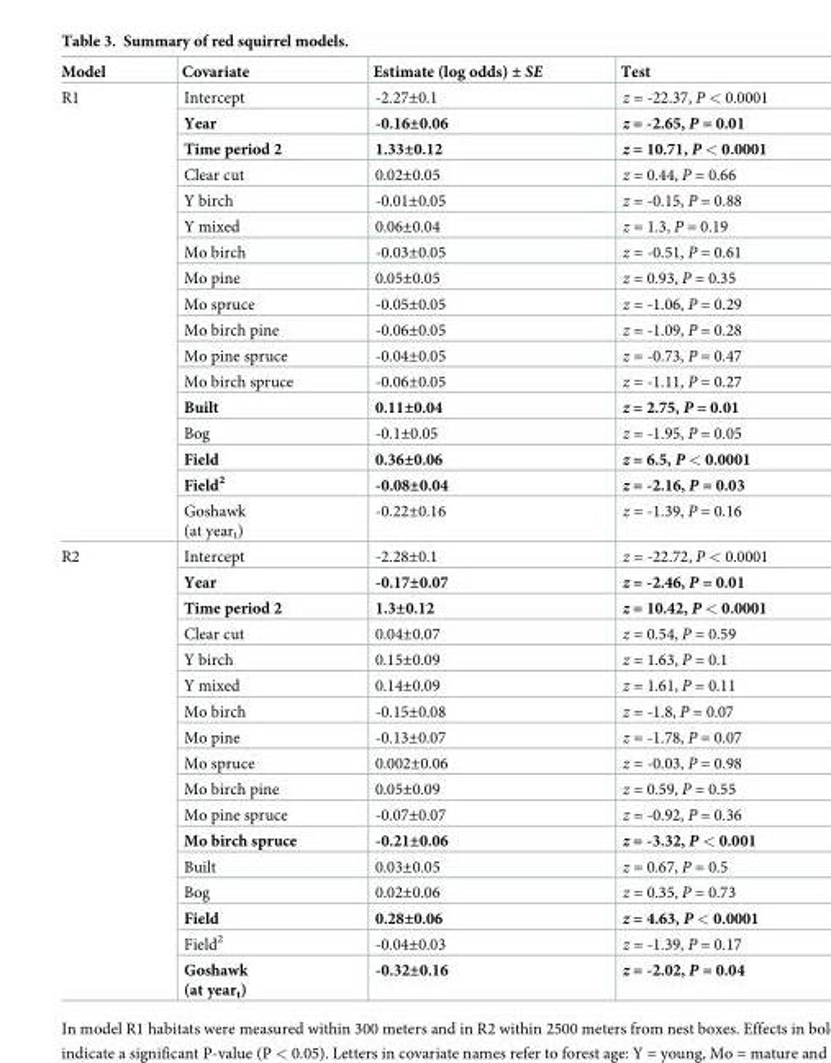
<table><thead><tr><td>Model</td><td>Covariate</td><td>Estimate (log odds) ± SE</td><td>Test</td></tr></thead><tbody><tr><td rowspan="17">R1</td><td>Intercept</td><td>-2.27±0.1</td><td>z = -22.37, P &lt; 0.0001</td></tr><tr><td>Year</td><td>-0.16±0.06</td><td>z = -2.65, P = 0.01</td></tr><tr><td>Time period 2</td><td>1.33±0.12</td><td>z = 10.71, P &lt; 0.0001</td></tr><tr><td>Clear cut</td><td>0.02±0.05</td><td>z = 0.44, P = 0.66</td></tr><tr><td>Y birch</td><td>-0.01±0.05</td><td>z = -0.15, P = 0.88</td></tr><tr><td>Y mixed</td><td>0.06±0.04</td><td>z = 1.3, P = 0.19</td></tr><tr><td>Mo birch</td><td>-0.03±0.05</td><td>z = -0.51, P = 0.61</td></tr><tr><td>Mo pine</td><td>0.05±0.05</td><td>z = 0.93, P = 0.35</td></tr><tr><td>Mo spruce</td><td>-0.05±0.05</td><td>z = -1.06, P = 0.29</td></tr><tr><td>Mo birch pine</td><td>-0.06±0.05</td><td>z = -1.09, P = 0.28</td></tr><tr><td>Mo pine spruce</td><td>-0.04±0.05</td><td>z = -0.73, P = 0.47</td></tr><tr><td>Mo birch spruce</td><td>-0.06±0.05</td><td>z = -1.11, P = 0.27</td></tr><tr><td>Built</td><td>0.11±0.04</td><td>z = 2.75, P = 0.01</td></tr><tr><td>Bog</td><td>-0.1±0.05</td><td>z = -1.95, P = 0.05</td></tr><tr><td>Field</td><td>0.36±0.06</td><td>z = 6.5, P &lt; 0.0001</td></tr><tr><td>Field<sup>2</sup></td><td>-0.08±0.04</td><td>z = -2.16, P = 0.03</td></tr><tr><td>Goshawk (at year<sub>t</sub>)</td><td>-0.22±0.16</td><td>z = -1.39, P = 0.16</td></tr><tr><td rowspan="17">R2</td><td>Intercept</td><td>-2.28±0.1</td><td>z = -22.72, P &lt; 0.0001</td></tr><tr><td>Year</td><td>-0.17±0.07</td><td>z = -2.46, P = 0.01</td></tr><tr><td>Time period 2</td><td>1.3±0.12</td><td>z = 10.42, P &lt; 0.0001</td></tr><tr><td>Clear cut</td><td>0.04±0.07</td><td>z = 0.54, P = 0.59</td></tr><tr><td>Y birch</td><td>0.15±0.09</td><td>z = 1.63, P = 0.1</td></tr><tr><td>Y mixed</td><td>0.14±0.09</td><td>z = 1.61, P = 0.11</td></tr><tr><td>Mo birch</td><td>-0.15±0.08</td><td>z = -1.8, P = 0.07</td></tr><tr><td>Mo pine</td><td>-0.13±0.07</td><td>z = -1.78, P = 0.07</td></tr><tr><td>Mo spruce</td><td>0.002±0.06</td><td>z = -0.03, P = 0.98</td></tr><tr><td>Mo birch pine</td><td>0.05±0.09</td><td>z = 0.59, P = 0.55</td></tr><tr><td>Mo pine spruce</td><td>-0.07±0.07</td><td>z = -0.92, P = 0.36</td></tr><tr><td>Mo birch spruce</td><td>-0.21±0.06</td><td>z = -3.32, P &lt; 0.001</td></tr><tr><td>Built</td><td>0.03±0.05</td><td>z = 0.67, P = 0.5</td></tr><tr><td>Bog</td><td>0.02±0.06</td><td>z = 0.35, P = 0.73</td></tr><tr><td>Field</td><td>0.28±0.06</td><td>z = 4.63, P &lt; 0.0001</td></tr><tr><td>Field<sup>2</sup></td><td>-0.04±0.03</td><td>z = -1.39, P = 0.17</td></tr><tr><td>Goshawk (at year<sub>t</sub>)</td><td>-0.32±0.16</td><td>z = -2.02, P = 0.04</td></tr></tbody></table>